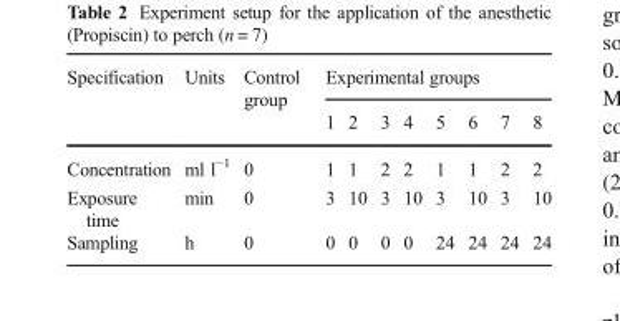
<table><thead><tr><td rowspan="2">Specification</td><td rowspan="2">Units</td><td rowspan="2">Control group</td><td colspan="8">Experimental groups</td></tr><tr><td>1</td><td>2</td><td>3</td><td>4</td><td>5</td><td>6</td><td>7</td><td>8</td></tr></thead><tbody><tr><td>Concentration</td><td>ml l<sup>−1</sup></td><td>0</td><td>1</td><td>1</td><td>2</td><td>2</td><td>1</td><td>1</td><td>2</td><td>2</td></tr><tr><td>Exposure time</td><td>min</td><td>0</td><td>3</td><td>10</td><td>3</td><td>10</td><td>3</td><td>10</td><td>3</td><td>10</td></tr><tr><td>Sampling</td><td>h</td><td>0</td><td>0</td><td>0</td><td>0</td><td>0</td><td>24</td><td>24</td><td>24</td><td>24</td></tr></tbody></table>